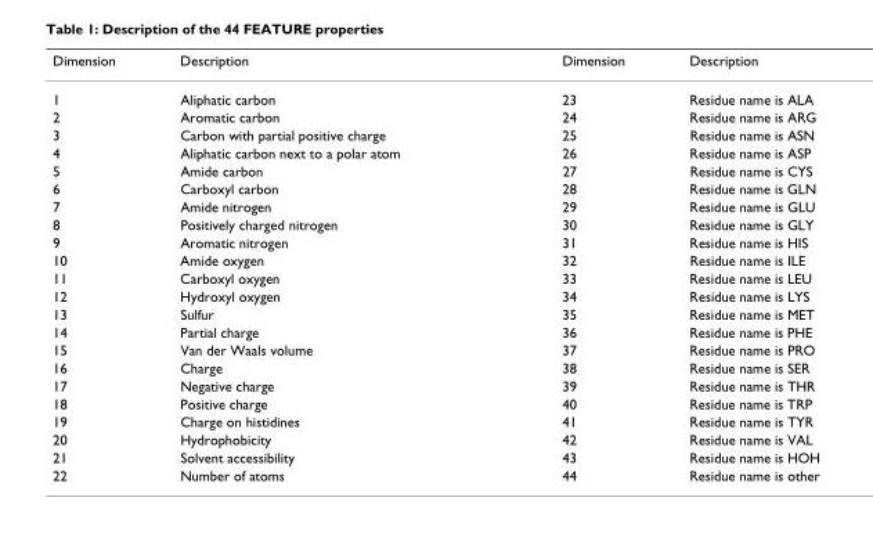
<table><thead><tr><td>Dimension</td><td>Description</td><td>Dimension</td><td>Description</td></tr></thead><tbody><tr><td>1</td><td>Aliphatic carbon</td><td>23</td><td>Residue name is ALA</td></tr><tr><td>2</td><td>Aromatic carbon</td><td>24</td><td>Residue name is ARG</td></tr><tr><td>3</td><td>Carbon with partial positive charge</td><td>25</td><td>Residue name is ASN</td></tr><tr><td>4</td><td>Aliphatic carbon next to a polar atom</td><td>26</td><td>Residue name is ASP</td></tr><tr><td>5</td><td>Amide carbon</td><td>27</td><td>Residue name is CYS</td></tr><tr><td>6</td><td>Carboxyl carbon</td><td>28</td><td>Residue name is GLN</td></tr><tr><td>7</td><td>Amide nitrogen</td><td>29</td><td>Residue name is GLU</td></tr><tr><td>8</td><td>Positively charged nitrogen</td><td>30</td><td>Residue name is GLY</td></tr><tr><td>9</td><td>Aromatic nitrogen</td><td>31</td><td>Residue name is HIS</td></tr><tr><td>10</td><td>Amide oxygen</td><td>32</td><td>Residue name is ILE</td></tr><tr><td>11</td><td>Carboxyl oxygen</td><td>33</td><td>Residue name is LEU</td></tr><tr><td>12</td><td>Hydroxyl oxygen</td><td>34</td><td>Residue name is LYS</td></tr><tr><td>13</td><td>Sulfur</td><td>35</td><td>Residue name is MET</td></tr><tr><td>14</td><td>Partial charge</td><td>36</td><td>Residue name is PHE</td></tr><tr><td>15</td><td>Van der Waals volume</td><td>37</td><td>Residue name is PRO</td></tr><tr><td>16</td><td>Charge</td><td>38</td><td>Residue name is SER</td></tr><tr><td>17</td><td>Negative charge</td><td>39</td><td>Residue name is THR</td></tr><tr><td>18</td><td>Positive charge</td><td>40</td><td>Residue name is TRP</td></tr><tr><td>19</td><td>Charge on histidines</td><td>41</td><td>Residue name is TYR</td></tr><tr><td>20</td><td>Hydrophobicity</td><td>42</td><td>Residue name is VAL</td></tr><tr><td>21</td><td>Solvent accessibility</td><td>43</td><td>Residue name is HOH</td></tr><tr><td>22</td><td>Number of atoms</td><td>44</td><td>Residue name is other</td></tr></tbody></table>